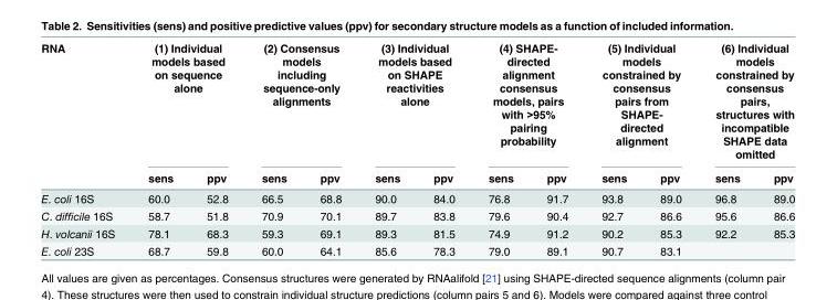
<table><thead><tr><td rowspan="2">RNA</td><td colspan="2">(1) Individual models based on sequence alone</td><td colspan="2">(2) Consensus models including sequence-only alignments</td><td colspan="2">(3) Individual models based on SHAPE reactivities alone</td><td colspan="2">(4) SHAPE- directed alignment consensus models, pairs with &gt;95% pairing probability</td><td colspan="2">(5) Individual models constrained by consensus pairs from SHAPE- directed alignment</td><td colspan="2">(6) Individual models constrained by consensus pairs, structures with incompatible SHAPE data omitted</td></tr><tr><td>sens</td><td>ppv</td><td>sens</td><td>ppv</td><td>sens</td><td>ppv</td><td>sens</td><td>ppv</td><td>sens</td><td>ppv</td><td>sens</td><td>ppv</td></tr></thead><tbody><tr><td>E. coli 16S</td><td>60.0</td><td>52.8</td><td>66.5</td><td>68.8</td><td>90.0</td><td>84.0</td><td>76.8</td><td>91.7</td><td>93.8</td><td>89.0</td><td>96.8</td><td>89.0</td></tr><tr><td>C. difficile 16S</td><td>58.7</td><td>51.8</td><td>70.9</td><td>70.1</td><td>89.7</td><td>83.8</td><td>79.6</td><td>90.4</td><td>92.7</td><td>86.6</td><td>95.6</td><td>86.6</td></tr><tr><td>H. volcanii 16S</td><td>78.1</td><td>68.3</td><td>59.3</td><td>69.1</td><td>89.3</td><td>81.5</td><td>74.9</td><td>91.2</td><td>90.2</td><td>85.3</td><td>92.2</td><td>85.3</td></tr><tr><td>E. coli 23S</td><td>68.7</td><td>59.8</td><td>60.0</td><td>64.1</td><td>85.6</td><td>78.3</td><td>79.0</td><td>89.1</td><td>90.7</td><td>83.1</td><td colspan="2"></td></tr></tbody></table>